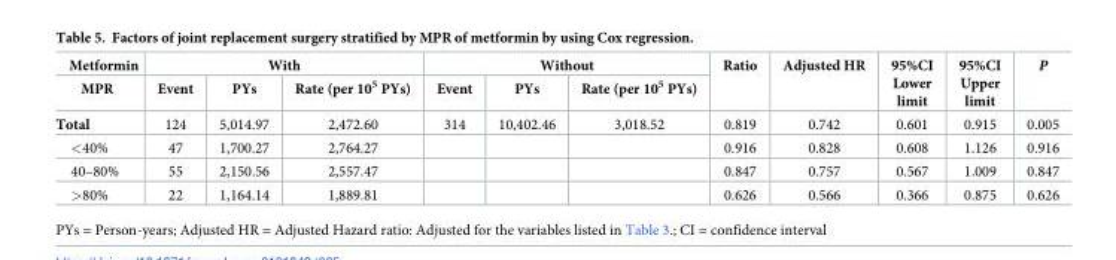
<table><thead><tr><td rowspan="2">Metformin MPR</td><td colspan="3">With</td><td colspan="3">Without</td><td rowspan="2">Ratio</td><td rowspan="2">Adjusted HR</td><td rowspan="2">95%CI Lower limit</td><td rowspan="2">95%CI Upper limit</td><td rowspan="2">P</td></tr><tr><td>Event</td><td>PYs</td><td>Rate (per 10<sup>5</sup> PYs)</td><td>Event</td><td>PYs</td><td>Rate (per 10<sup>5</sup> PYs)</td></tr></thead><tbody><tr><td>Total</td><td>124</td><td>5,014.97</td><td>2,472.60</td><td>314</td><td>10,402.46</td><td>3,018.52</td><td>0.819</td><td>0.742</td><td>0.601</td><td>0.915</td><td>0.005</td></tr><tr><td>&lt;40%</td><td>47</td><td>1,700.27</td><td>2,764.27</td><td></td><td></td><td></td><td>0.916</td><td>0.828</td><td>0.608</td><td>1.126</td><td>0.916</td></tr><tr><td>40–80%</td><td>55</td><td>2,150.56</td><td>2,557.47</td><td></td><td></td><td></td><td>0.847</td><td>0.757</td><td>0.567</td><td>1.009</td><td>0.847</td></tr><tr><td>&gt;80%</td><td>22</td><td>1,164.14</td><td>1,889.81</td><td></td><td></td><td></td><td>0.626</td><td>0.566</td><td>0.366</td><td>0.875</td><td>0.626</td></tr></tbody></table>